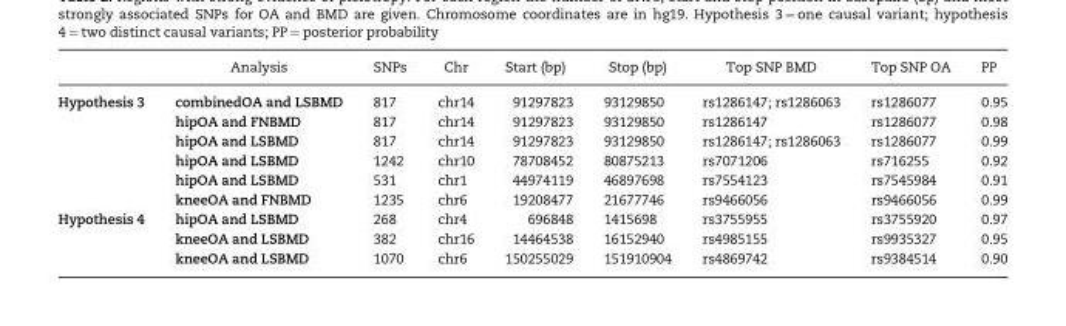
<table><thead><tr><td></td><td>Analysis</td><td>SNPs</td><td>Chr</td><td>Start (bp)</td><td>Stop (bp)</td><td>Top SNP BMD</td><td>Top SNP OA</td><td>PP</td></tr></thead><tbody><tr><td rowspan="6">Hypothesis 3</td><td>combinedOA and LSBMD</td><td>817</td><td>chr14</td><td>91297823</td><td>93129850</td><td>rs1286147; rs1286063</td><td>rs1286077</td><td>0.95</td></tr><tr><td>hipOA and FNBMD</td><td>817</td><td>chr14</td><td>91297823</td><td>93129850</td><td>rs1286147</td><td>rs1286077</td><td>0.98</td></tr><tr><td>hipOA and LSBMD</td><td>817</td><td>chr14</td><td>91297823</td><td>93129850</td><td>rs1286147; rs1286063</td><td>rs1286077</td><td>0.99</td></tr><tr><td>hipOA and LSBMD</td><td>1242</td><td>chr10</td><td>78708452</td><td>80875213</td><td>rs7071206</td><td>rs716255</td><td>0.92</td></tr><tr><td>hipOA and LSBMD</td><td>531</td><td>chr1</td><td>44974119</td><td>46897698</td><td>rs7554123</td><td>rs7545984</td><td>0.91</td></tr><tr><td>kneeOA and FNBMD</td><td>1235</td><td>chr6</td><td>19208477</td><td>21677746</td><td>rs9466056</td><td>rs9466056</td><td>0.99</td></tr><tr><td rowspan="3">Hypothesis 4</td><td>hipOA and LSBMD</td><td>268</td><td>chr4</td><td>696848</td><td>1415698</td><td>rs3755955</td><td>rs3755920</td><td>0.97</td></tr><tr><td>kneeOA and LSBMD</td><td>382</td><td>chr16</td><td>14464538</td><td>16152940</td><td>rs4985155</td><td>rs9935327</td><td>0.95</td></tr><tr><td>kneeOA and LSBMD</td><td>1070</td><td>chr6</td><td>150255029</td><td>151910904</td><td>rs4869742</td><td>rs9384514</td><td>0.90</td></tr></tbody></table>